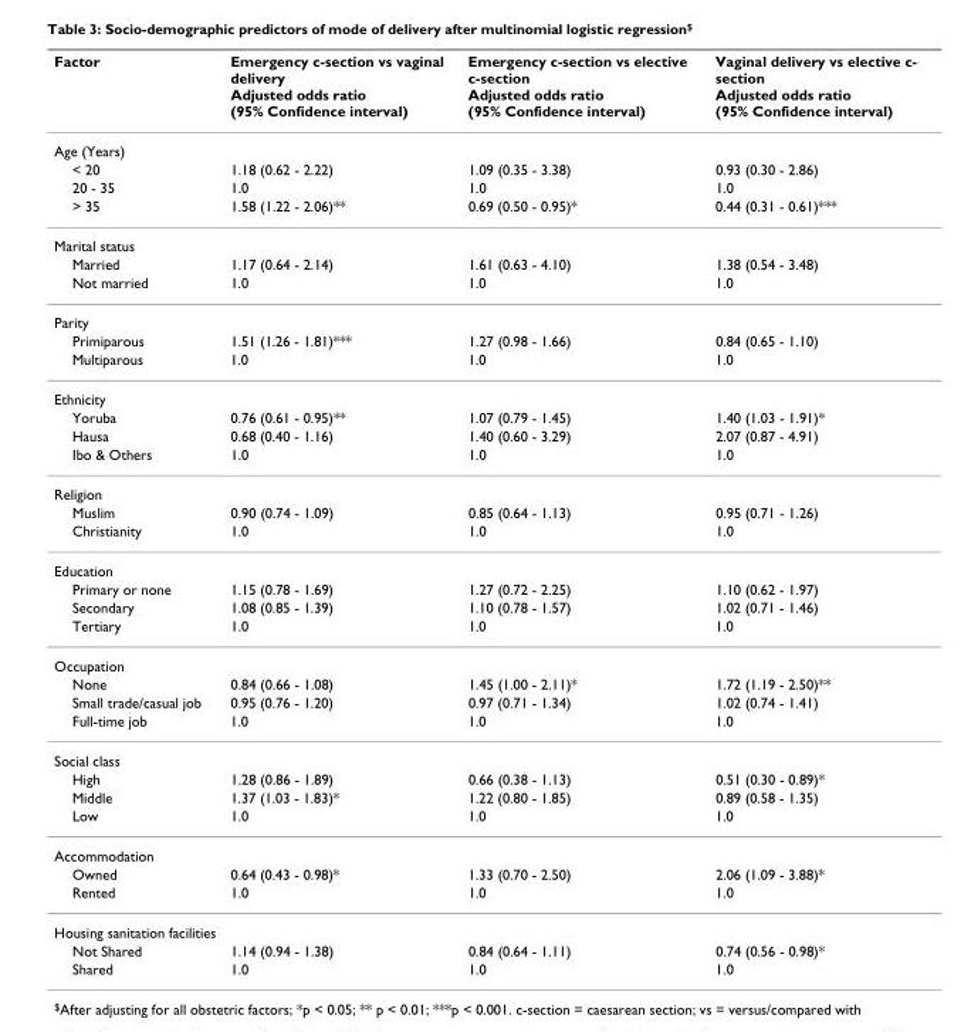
<table><thead><tr><td>Factor</td><td>Emergency c-section vs vaginal delivery Adjusted odds ratio (95% Confidence interval)</td><td>Emergency c-section vs elective c-section Adjusted odds ratio (95% Confidence interval)</td><td>Vaginal delivery vs elective c- section Adjusted odds ratio (95% Confidence interval)</td></tr></thead><tbody><tr><td colspan="4">Age (Years)</td></tr><tr><td>&lt; 20</td><td>1.18 (0.62 - 2.22)</td><td>1.09 (0.35 - 3.38)</td><td>0.93 (0.30 - 2.86)</td></tr><tr><td>20 - 35</td><td>1.0</td><td>1.0</td><td>1.0</td></tr><tr><td>&gt; 35</td><td>1.58 (1.22 - 2.06)**</td><td>0.69 (0.50 - 0.95)*</td><td>0.44 (0.31 - 0.61)***</td></tr><tr><td colspan="4">Marital status</td></tr><tr><td>Married</td><td>1.17 (0.64 - 2.14)</td><td>1.61 (0.63 - 4.10)</td><td>1.38 (0.54 - 3.48)</td></tr><tr><td>Not married</td><td>1.0</td><td>1.0</td><td>1.0</td></tr><tr><td colspan="4">Parity</td></tr><tr><td>Primiparous</td><td>1.51 (1.26 - 1.81)***</td><td>1.27 (0.98 - 1.66)</td><td>0.84 (0.65 - 1.10)</td></tr><tr><td>Multiparous</td><td>1.0</td><td>1.0</td><td>1.0</td></tr><tr><td colspan="4">Ethnicity</td></tr><tr><td>Yoruba</td><td>0.76 (0.61 - 0.95)**</td><td>1.07 (0.79 - 1.45)</td><td>1.40 (1.03 - 1.91)*</td></tr><tr><td>Hausa</td><td>0.68 (0.40 - 1.16)</td><td>1.40 (0.60 - 3.29)</td><td>2.07 (0.87 - 4.91)</td></tr><tr><td>Ibo &amp; Others</td><td>1.0</td><td>1.0</td><td>1.0</td></tr><tr><td colspan="4">Religion</td></tr><tr><td>Muslim</td><td>0.90 (0.74 - 1.09)</td><td>0.85 (0.64 - 1.13)</td><td>0.95 (0.71 - 1.26)</td></tr><tr><td>Christianity</td><td>1.0</td><td>1.0</td><td>1.0</td></tr><tr><td colspan="4">Education</td></tr><tr><td>Primary or none</td><td>1.15 (0.78 - 1.69)</td><td>1.27 (0.72 - 2.25)</td><td>1.10 (0.62 - 1.97)</td></tr><tr><td>Secondary</td><td>1.08 (0.85 - 1.39)</td><td>1.10 (0.78 - 1.57)</td><td>1.02 (0.71 - 1.46)</td></tr><tr><td>Tertiary</td><td>1.0</td><td>1.0</td><td>1.0</td></tr><tr><td colspan="4">Occupation</td></tr><tr><td>None</td><td>0.84 (0.66 - 1.08)</td><td>1.45 (1.00 - 2.11)*</td><td>1.72 (1.19 - 2.50)**</td></tr><tr><td>Small trade/casual job</td><td>0.95 (0.76 - 1.20)</td><td>0.97 (0.71 - 1.34)</td><td>1.02 (0.74 - 1.41)</td></tr><tr><td>Full-time job</td><td>1.0</td><td>1.0</td><td>1.0</td></tr><tr><td colspan="4">Social class</td></tr><tr><td>High</td><td>1.28 (0.86 - 1.89)</td><td>0.66 (0.38 - 1.13)</td><td>0.51 (0.30 - 0.89)*</td></tr><tr><td>Middle</td><td>1.37 (1.03 - 1.83)*</td><td>1.22 (0.80 - 1.85)</td><td>0.89 (0.58 - 1.35)</td></tr><tr><td>Low</td><td>1.0</td><td>1.0</td><td>1.0</td></tr><tr><td colspan="4">Accommodation</td></tr><tr><td>Owned</td><td>0.64 (0.43 - 0.98)*</td><td>1.33 (0.70 - 2.50)</td><td>2.06 (1.09 - 3.88)*</td></tr><tr><td>Rented</td><td>1.0</td><td>1.0</td><td>1.0</td></tr><tr><td colspan="4">Housing sanitation facilities</td></tr><tr><td>Not Shared</td><td>1.14 (0.94 - 1.38)</td><td>0.84 (0.64 - 1.11)</td><td>0.74 (0.56 - 0.98)*</td></tr><tr><td>Shared</td><td>1.0</td><td>1.0</td><td>1.0</td></tr></tbody></table>